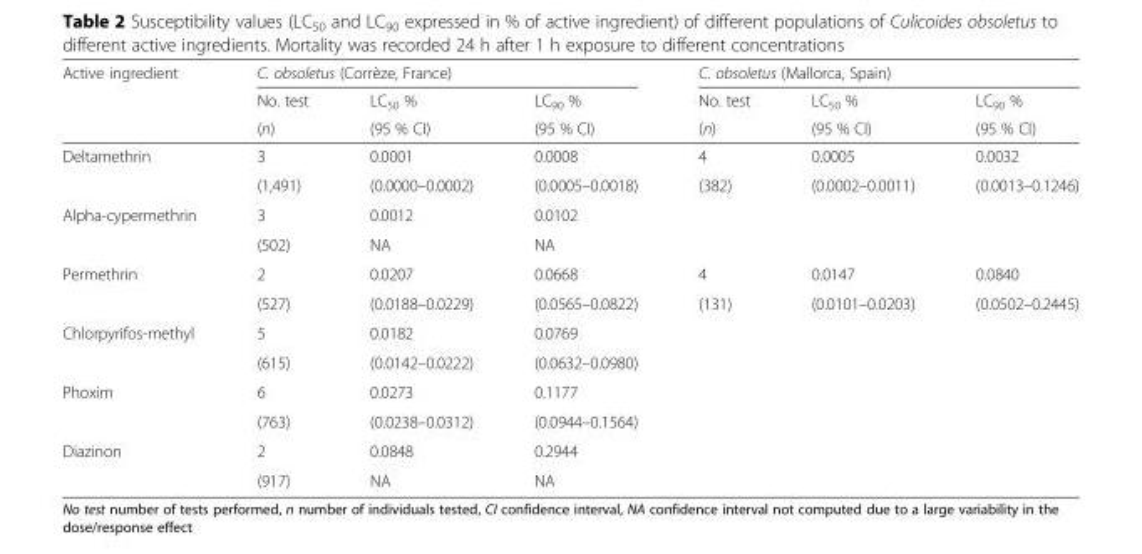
<table><thead><tr><td rowspan="3">Active ingredient</td><td colspan="3">C. obsoletus (Corrèze, France)</td><td colspan="3">C. obsoletus (Mallorca, Spain)</td></tr><tr><td rowspan="2">No. test (n)</td><td rowspan="2">LC<sub>50</sub> % (95 % CI)</td><td rowspan="2">LC<sub>90</sub> % (95 % CI)</td><td rowspan="2">No. test (n)</td><td rowspan="2">LC<sub>50</sub> % (95 % CI)</td><td rowspan="2">LC<sub>90</sub> % (95 % CI)</td></tr><tr></tr></thead><tbody><tr><td rowspan="2">Deltamethrin</td><td>3</td><td>0.0001</td><td>0.0008</td><td>4</td><td>0.0005</td><td>0.0032</td></tr><tr><td>(1,491)</td><td>(0.0000–0.0002)</td><td>(0.0005–0.0018)</td><td>(382)</td><td>(0.0002–0.0011)</td><td>(0.0013–0.1246)</td></tr><tr><td rowspan="2">Alpha-cypermethrin</td><td>3</td><td>0.0012</td><td>0.0102</td><td></td><td></td><td></td></tr><tr><td>(502)</td><td>NA</td><td>NA</td><td></td><td></td><td></td></tr><tr><td rowspan="2">Permethrin</td><td>2</td><td>0.0207</td><td>0.0668</td><td>4</td><td>0.0147</td><td>0.0840</td></tr><tr><td>(527)</td><td>(0.0188–0.0229)</td><td>(0.0565–0.0822)</td><td>(131)</td><td>(0.0101–0.0203)</td><td>(0.0502–0.2445)</td></tr><tr><td rowspan="2">Chlorpyrifos-methyl</td><td>5</td><td>0.0182</td><td>0.0769</td><td></td><td></td><td></td></tr><tr><td>(615)</td><td>(0.0142–0.0222)</td><td>(0.0632–0.0980)</td><td></td><td></td><td></td></tr><tr><td rowspan="2">Phoxim</td><td>6</td><td>0.0273</td><td>0.1177</td><td></td><td></td><td></td></tr><tr><td>(763)</td><td>(0.0238–0.0312)</td><td>(0.0944–0.1564)</td><td></td><td></td><td></td></tr><tr><td rowspan="2">Diazinon</td><td>2</td><td>0.0848</td><td>0.2944</td><td></td><td></td><td></td></tr><tr><td>(917)</td><td>NA</td><td>NA</td><td></td><td></td><td></td></tr></tbody></table>